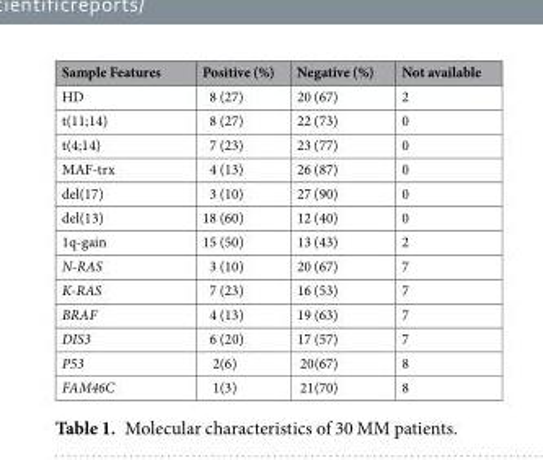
<table><thead><tr><td>Sample Features</td><td>Positive (%)</td><td>Negative (%)</td><td>Not available</td></tr></thead><tbody><tr><td>HD</td><td>8 (27)</td><td>20 (67)</td><td>2</td></tr><tr><td>t(11;14)</td><td>8 (27)</td><td>22 (73)</td><td>0</td></tr><tr><td>t(4;14)</td><td>7 (23)</td><td>23 (77)</td><td>0</td></tr><tr><td>MAF-trx</td><td>4 (13)</td><td>26 (87)</td><td>0</td></tr><tr><td>del(17)</td><td>3 (10)</td><td>27 (90)</td><td>0</td></tr><tr><td>del(13)</td><td>18 (60)</td><td>12 (40)</td><td>0</td></tr><tr><td>1q-gain</td><td>15 (50)</td><td>13 (43)</td><td>2</td></tr><tr><td>N-RAS</td><td>3 (10)</td><td>20 (67)</td><td>7</td></tr><tr><td>K-RAS</td><td>7 (23)</td><td>16 (53)</td><td>7</td></tr><tr><td>BRAF</td><td>4 (13)</td><td>19 (63)</td><td>7</td></tr><tr><td>DIS3</td><td>6 (20)</td><td>17 (57)</td><td>7</td></tr><tr><td>P53</td><td>2(6)</td><td>20(67)</td><td>8</td></tr><tr><td>FAM46C</td><td>1(3)</td><td>21(70)</td><td>8</td></tr></tbody></table>